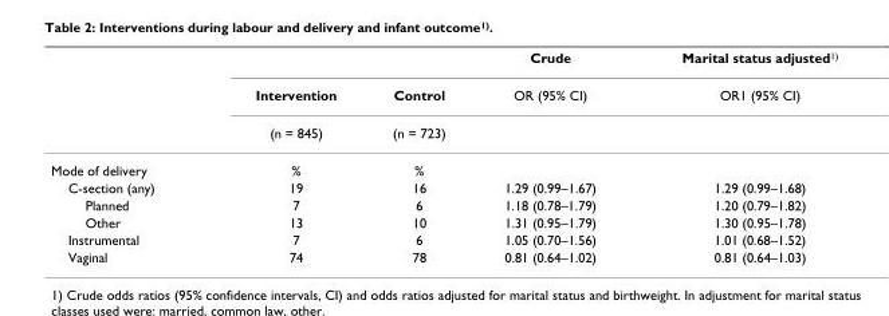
<table><thead><tr><td rowspan="3"></td><td rowspan="3">Intervention (n = 845)</td><td rowspan="3">Control (n = 723)</td><td rowspan="3">Crude OR (95% CI)</td><td rowspan="3">Marital status adjusted<sup>1)</sup> OR1 (95% CI)</td></tr><tr></tr><tr></tr></thead><tbody><tr><td>Mode of delivery</td><td>%</td><td>%</td><td></td><td></td></tr><tr><td>C-section (any)</td><td>19</td><td>16</td><td>1.29 (0.99–1.67)</td><td>1.29 (0.99–1.68)</td></tr><tr><td>Planned</td><td>7</td><td>6</td><td>1.18 (0.78–1.79)</td><td>1.20 (0.79–1.82)</td></tr><tr><td>Other</td><td>13</td><td>10</td><td>1.31 (0.95–1.79)</td><td>1.30 (0.95–1.78)</td></tr><tr><td>Instrumental</td><td>7</td><td>6</td><td>1.05 (0.70–1.56)</td><td>1.01 (0.68–1.52)</td></tr><tr><td>Vaginal</td><td>74</td><td>78</td><td>0.81 (0.64–1.02)</td><td>0.81 (0.64–1.03)</td></tr></tbody></table>